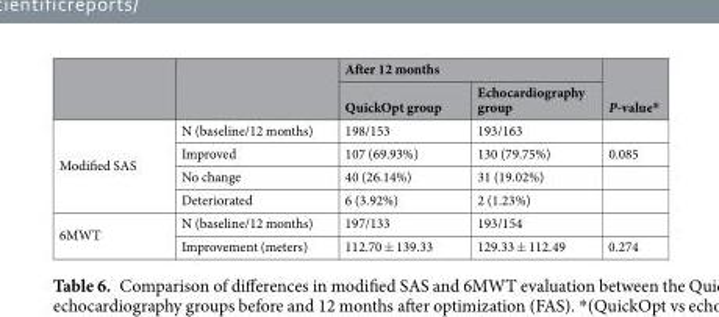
<table><thead><tr><td rowspan="2"></td><td rowspan="2"></td><td colspan="2">After 12 months</td><td rowspan="2">P-value*</td></tr><tr><td>QuickOpt group</td><td>Echocardiography group</td></tr></thead><tbody><tr><td rowspan="4">Modified SAS</td><td>N (baseline/12 months)</td><td>198/153</td><td>193/163</td><td></td></tr><tr><td>Improved</td><td>107 (69.93%)</td><td>130 (79.75%)</td><td>0.085</td></tr><tr><td>No change</td><td>40 (26.14%)</td><td>31 (19.02%)</td><td></td></tr><tr><td>Deteriorated</td><td>6 (3.92%)</td><td>2 (1.23%)</td><td></td></tr><tr><td rowspan="2">6MWT</td><td>N (baseline/12 months)</td><td>197/133</td><td>193/154</td><td></td></tr><tr><td>Improvement (meters)</td><td>112.70 ± 139.33</td><td>129.33 ± 112.49</td><td>0.274</td></tr></tbody></table>